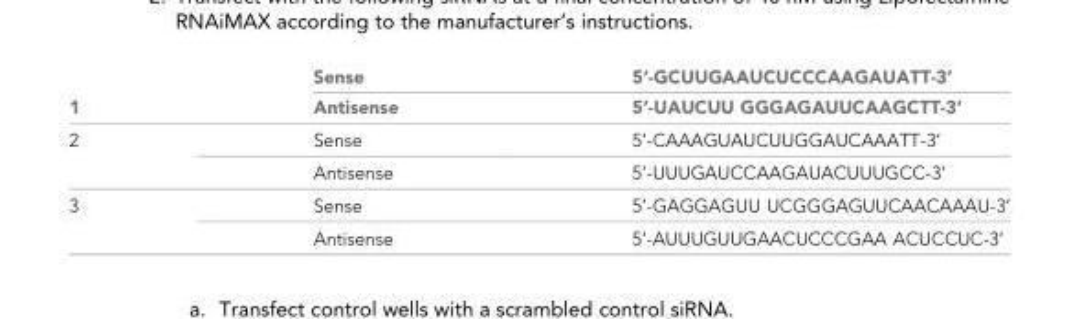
<table><thead><tr><td rowspan="2">1</td><td rowspan="2">Sense Antisense</td><td rowspan="2">5’-GCUUGAAUCUCCCAAGAUATT-3’ 5’-UAUCUU GGGAGAUUCAAGCTT-3’</td></tr><tr></tr></thead><tbody><tr><td rowspan="2">2</td><td>Sense</td><td>5’-CAAAGUAUCUUGGAUCAAATT-3’</td></tr><tr><td>Antisense</td><td>5’-UUUGAUCCAAGAUACUUUGCC-3’</td></tr><tr><td rowspan="2">3</td><td>Sense</td><td>5’-GAGGAGUU UCGGGAGUUCAACAAAU-3’</td></tr><tr><td>Antisense</td><td>5’-AUUUGUUGAACUCCCGAA ACUCCUC-3’</td></tr></tbody></table>